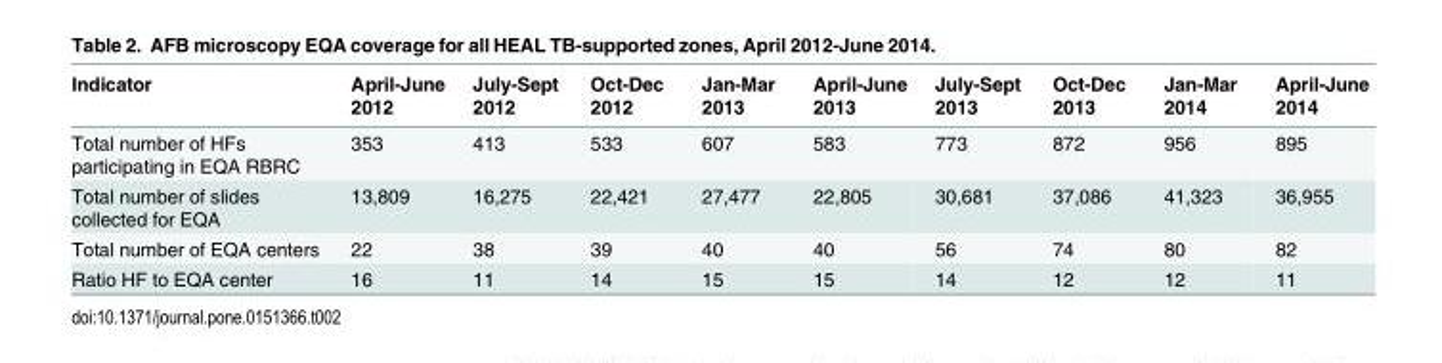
<table><thead><tr><td>Indicator</td><td>April-June 2012</td><td>July-Sept 2012</td><td>Oct-Dec 2012</td><td>Jan-Mar 2013</td><td>April-June 2013</td><td>July-Sept 2013</td><td>Oct-Dec 2013</td><td>Jan-Mar 2014</td><td>April-June 2014</td></tr></thead><tbody><tr><td>Total number of HFs participating in EQA RBRC</td><td>353</td><td>413</td><td>533</td><td>607</td><td>583</td><td>773</td><td>872</td><td>956</td><td>895</td></tr><tr><td>Total number of slides collected for EQA</td><td>13,809</td><td>16,275</td><td>22,421</td><td>27,477</td><td>22,805</td><td>30,681</td><td>37,086</td><td>41,323</td><td>36,955</td></tr><tr><td>Total number of EQA centers</td><td>22</td><td>38</td><td>39</td><td>40</td><td>40</td><td>56</td><td>74</td><td>80</td><td>82</td></tr><tr><td>Ratio HF to EQA center</td><td>16</td><td>11</td><td>14</td><td>15</td><td>15</td><td>14</td><td>12</td><td>12</td><td>11</td></tr></tbody></table>